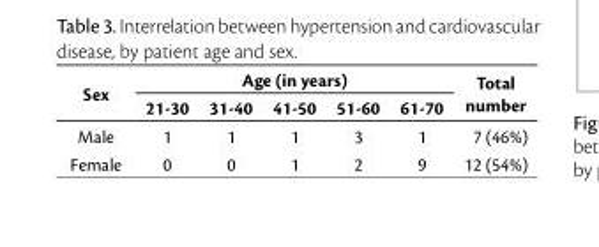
<table><thead><tr><td rowspan="2">Sex</td><td colspan="5">Age (in years)</td><td rowspan="2">Total number</td></tr><tr><td>21-30</td><td>31-40</td><td>41-50</td><td>51-60</td><td>61-70</td></tr></thead><tbody><tr><td>Male</td><td>1</td><td>1</td><td>1</td><td>3</td><td>1</td><td>7 (46%)</td></tr><tr><td>Female</td><td>0</td><td>0</td><td>1</td><td>2</td><td>9</td><td>12 (54%)</td></tr></tbody></table>